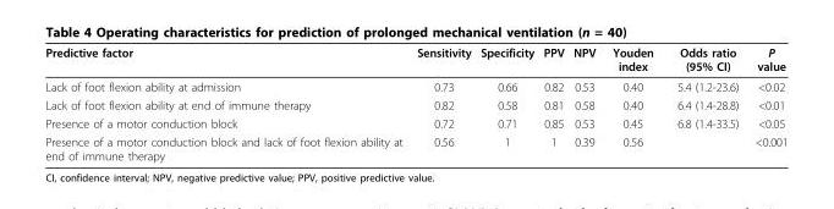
<table><thead><tr><td>Predictive factor</td><td>Sensitivity</td><td>Specificity</td><td>PPV</td><td>NPV</td><td>Youden index</td><td>Odds ratio (95% CI)</td><td>P value</td></tr></thead><tbody><tr><td>Lack of foot flexion ability at admission</td><td>0.73</td><td>0.66</td><td>0.82</td><td>0.53</td><td>0.40</td><td>5.4 (1.2-23.6)</td><td>&lt;0.02</td></tr><tr><td>Lack of foot flexion ability at end of immune therapy</td><td>0.82</td><td>0.58</td><td>0.81</td><td>0.58</td><td>0.40</td><td>6.4 (1.4-28.8)</td><td>&lt;0.01</td></tr><tr><td>Presence of a motor conduction block</td><td>0.72</td><td>0.71</td><td>0.85</td><td>0.53</td><td>0.45</td><td>6.8 (1.4-33.5)</td><td>&lt;0.05</td></tr><tr><td>Presence of a motor conduction block and lack of foot flexion ability at end of immune therapy</td><td>0.56</td><td>1</td><td>1</td><td>0.39</td><td>0.56</td><td></td><td>&lt;0.001</td></tr></tbody></table>